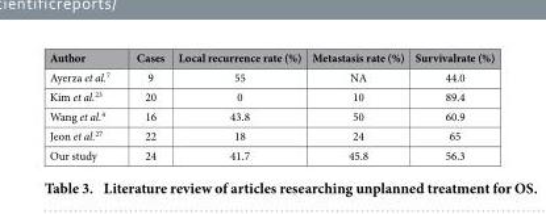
<table><thead><tr><td>Author</td><td>Cases</td><td>Local recurrence rate (%)</td><td>Metastasis rate (%)</td><td>Survivalrate (%)</td></tr></thead><tbody><tr><td>Ayerza et al.<sup>7</sup></td><td>9</td><td>55</td><td>NA</td><td>44.0</td></tr><tr><td>Kim et al.<sup>23</sup></td><td>20</td><td>0</td><td>10</td><td>89.4</td></tr><tr><td>Wang et al.<sup>4</sup></td><td>16</td><td>43.8</td><td>50</td><td>60.9</td></tr><tr><td>Jeon et al.<sup>27</sup></td><td>22</td><td>18</td><td>24</td><td>65</td></tr><tr><td>Our study</td><td>24</td><td>41.7</td><td>45.8</td><td>56.3</td></tr></tbody></table>